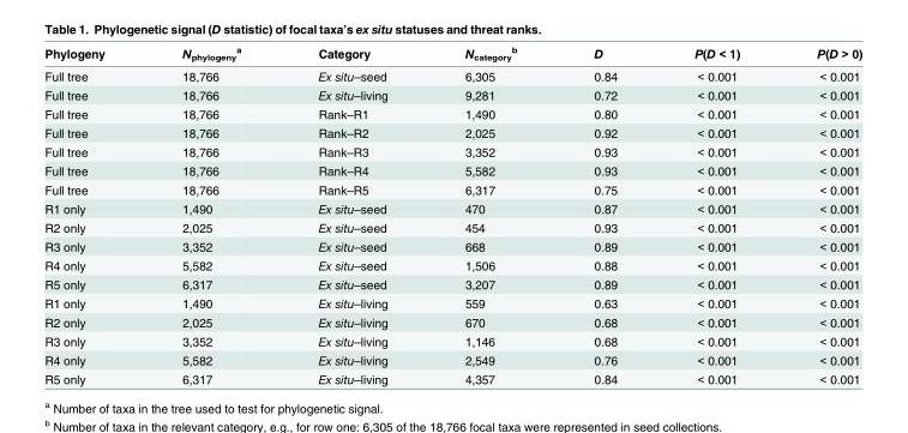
<table><thead><tr><td>Phylogeny</td><td>N<sub>phylogeny</sub> <sup>a</sup></td><td>Category</td><td>N<sub>category</sub> <sup>b</sup></td><td>D</td><td>P(D &lt; 1)</td><td>P(D &gt; 0)</td></tr></thead><tbody><tr><td>Full tree</td><td>18,766</td><td>Ex situ–seed</td><td>6,305</td><td>0.84</td><td>&lt; 0.001</td><td>&lt; 0.001</td></tr><tr><td>Full tree</td><td>18,766</td><td>Ex situ–living</td><td>9,281</td><td>0.72</td><td>&lt; 0.001</td><td>&lt; 0.001</td></tr><tr><td>Full tree</td><td>18,766</td><td>Rank–R1</td><td>1,490</td><td>0.80</td><td>&lt; 0.001</td><td>&lt; 0.001</td></tr><tr><td>Full tree</td><td>18,766</td><td>Rank–R2</td><td>2,025</td><td>0.92</td><td>&lt; 0.001</td><td>&lt; 0.001</td></tr><tr><td>Full tree</td><td>18,766</td><td>Rank–R3</td><td>3,352</td><td>0.93</td><td>&lt; 0.001</td><td>&lt; 0.001</td></tr><tr><td>Full tree</td><td>18,766</td><td>Rank–R4</td><td>5,582</td><td>0.93</td><td>&lt; 0.001</td><td>&lt; 0.001</td></tr><tr><td>Full tree</td><td>18,766</td><td>Rank–R5</td><td>6,317</td><td>0.75</td><td>&lt; 0.001</td><td>&lt; 0.001</td></tr><tr><td>R1 only</td><td>1,490</td><td>Ex situ–seed</td><td>470</td><td>0.87</td><td>&lt; 0.001</td><td>&lt; 0.001</td></tr><tr><td>R2 only</td><td>2,025</td><td>Ex situ–seed</td><td>454</td><td>0.93</td><td>&lt; 0.001</td><td>&lt; 0.001</td></tr><tr><td>R3 only</td><td>3,352</td><td>Ex situ–seed</td><td>668</td><td>0.89</td><td>&lt; 0.001</td><td>&lt; 0.001</td></tr><tr><td>R4 only</td><td>5,582</td><td>Ex situ–seed</td><td>1,506</td><td>0.88</td><td>&lt; 0.001</td><td>&lt; 0.001</td></tr><tr><td>R5 only</td><td>6,317</td><td>Ex situ–seed</td><td>3,207</td><td>0.89</td><td>&lt; 0.001</td><td>&lt; 0.001</td></tr><tr><td>R1 only</td><td>1,490</td><td>Ex situ–living</td><td>559</td><td>0.63</td><td>&lt; 0.001</td><td>&lt; 0.001</td></tr><tr><td>R2 only</td><td>2,025</td><td>Ex situ–living</td><td>670</td><td>0.68</td><td>&lt; 0.001</td><td>&lt; 0.001</td></tr><tr><td>R3 only</td><td>3,352</td><td>Ex situ–living</td><td>1,146</td><td>0.68</td><td>&lt; 0.001</td><td>&lt; 0.001</td></tr><tr><td>R4 only</td><td>5,582</td><td>Ex situ–living</td><td>2,549</td><td>0.76</td><td>&lt; 0.001</td><td>&lt; 0.001</td></tr><tr><td>R5 only</td><td>6,317</td><td>Ex situ–living</td><td>4,357</td><td>0.84</td><td>&lt; 0.001</td><td>&lt; 0.001</td></tr></tbody></table>